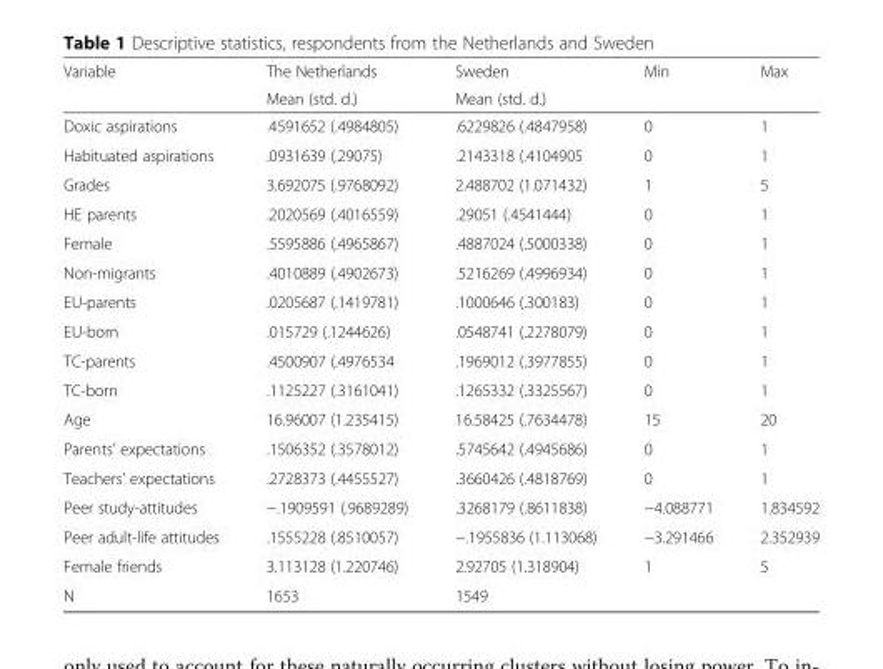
<table><thead><tr><td rowspan="2">Variable</td><td rowspan="2">The Netherlands Mean (std. d.)</td><td rowspan="2">Sweden Mean (std. d.)</td><td rowspan="2">Min</td><td rowspan="2">Max</td></tr><tr></tr></thead><tbody><tr><td>Doxic aspirations</td><td>.4591652 (.4984805)</td><td>.6229826 (.4847958)</td><td>0</td><td>1</td></tr><tr><td>Habituated aspirations</td><td>.0931639 (.29075)</td><td>.2143318 (.4104905</td><td>0</td><td>1</td></tr><tr><td>Grades</td><td>3.692075 (.9768092)</td><td>2.488702 (1.071432)</td><td>1</td><td>5</td></tr><tr><td>HE parents</td><td>.2020569 (.4016559)</td><td>.29051 (.4541444)</td><td>0</td><td>1</td></tr><tr><td>Female</td><td>.5595886 (.4965867)</td><td>.4887024 (.5000338)</td><td>0</td><td>1</td></tr><tr><td>Non-migrants</td><td>.4010889 (.4902673)</td><td>.5216269 (.4996934)</td><td>0</td><td>1</td></tr><tr><td>EU-parents</td><td>.0205687 (.1419781)</td><td>.1000646 (.300183)</td><td>0</td><td>1</td></tr><tr><td>EU-born</td><td>.015729 (.1244626)</td><td>.0548741 (.2278079)</td><td>0</td><td>1</td></tr><tr><td>TC-parents</td><td>.4500907 (.4976534</td><td>.1969012 (.3977855)</td><td>0</td><td>1</td></tr><tr><td>TC-born</td><td>.1125227 (.3161041)</td><td>.1265332 (.3325567)</td><td>0</td><td>1</td></tr><tr><td>Age</td><td>16.96007 (1.235415)</td><td>16.58425 (.7634478)</td><td>15</td><td>20</td></tr><tr><td>Parents’ expectations</td><td>.1506352 (.3578012)</td><td>.5745642 (.4945686)</td><td>0</td><td>1</td></tr><tr><td>Teachers’ expectations</td><td>.2728373 (.4455527)</td><td>.3660426 (.4818769)</td><td>0</td><td>1</td></tr><tr><td>Peer study-attitudes</td><td>−.1909591 (.9689289)</td><td>.3268179 (.8611838)</td><td>−4.088771</td><td>1.834592</td></tr><tr><td>Peer adult-life attitudes</td><td>.1555228 (.8510057)</td><td>−.1955836 (1.113068)</td><td>−3.291466</td><td>2.352939</td></tr><tr><td>Female friends</td><td>3.113128 (1.220746)</td><td>2.92705 (1.318904)</td><td>1</td><td>5</td></tr><tr><td>N</td><td>1653</td><td>1549</td><td></td><td></td></tr></tbody></table>